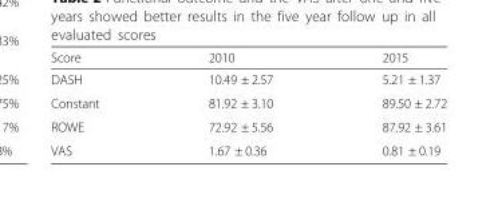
<table><thead><tr><td>Score</td><td>2010</td><td>2015</td></tr></thead><tbody><tr><td>DASH</td><td>10.49 ± 2.57</td><td>5.21 ± 1.37</td></tr><tr><td>Constant</td><td>81.92 ± 3.10</td><td>89.50 ± 2.72</td></tr><tr><td>ROWE</td><td>72.92 ± 5.56</td><td>87.92 ± 3.61</td></tr><tr><td>VAS</td><td>1.67 ± 0.36</td><td>0.81 ± 0.19</td></tr></tbody></table>